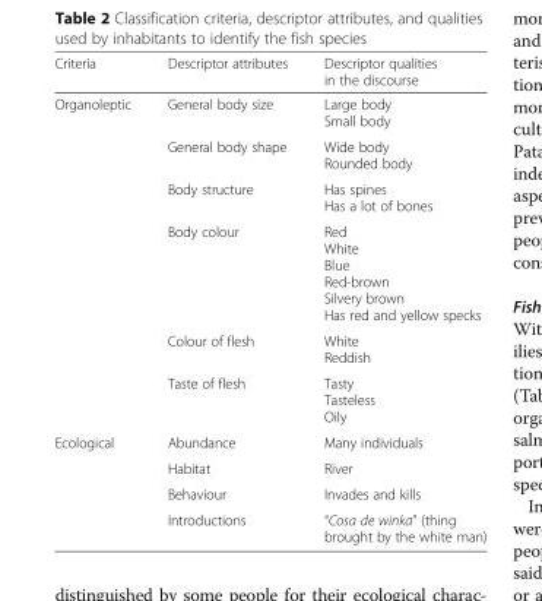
<table><thead><tr><td>Criteria</td><td>Descriptor attributes</td><td>Descriptor qualities in the discourse</td></tr></thead><tbody><tr><td rowspan="6">Organoleptic</td><td>General body size</td><td>Large body Small body</td></tr><tr><td>General body shape</td><td>Wide body Rounded body</td></tr><tr><td>Body structure</td><td>Has spines Has a lot of bones</td></tr><tr><td>Body colour</td><td>Red White Blue Red-brown Silvery brown Has red and yellow specks</td></tr><tr><td>Colour of flesh</td><td>White Reddish</td></tr><tr><td>Taste of flesh</td><td>Tasty Tasteless Oily</td></tr><tr><td rowspan="4">Ecological</td><td>Abundance</td><td>Many individuals</td></tr><tr><td>Habitat</td><td>River</td></tr><tr><td>Behaviour</td><td>Invades and kills</td></tr><tr><td>Introductions</td><td>“Cosa de winka” (thing brought by the white man)</td></tr></tbody></table>